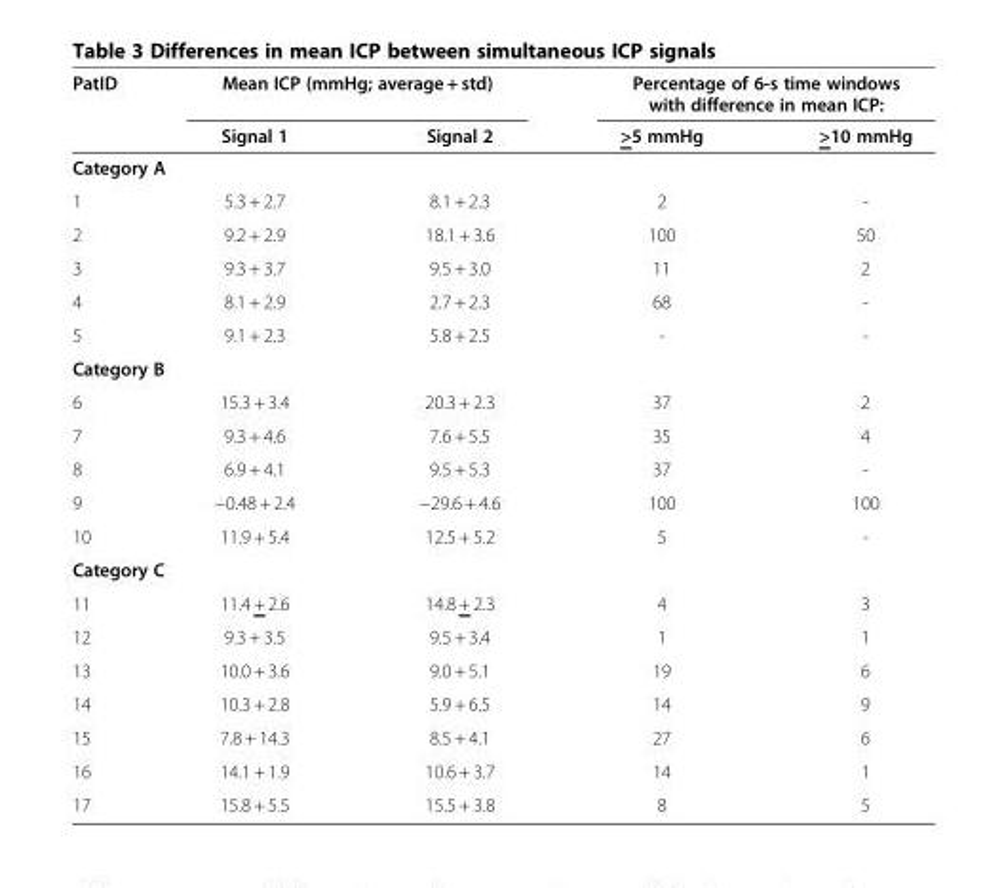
<table><thead><tr><td rowspan="2">PatID</td><td colspan="2">Mean ICP (mmHg; average + std)</td><td colspan="2">Percentage of 6-s time windows with difference in mean ICP:</td></tr><tr><td>Signal 1</td><td>Signal 2</td><td>&gt;5 mmHg</td><td>&gt;10 mmHg</td></tr></thead><tbody><tr><td colspan="5">Category A</td></tr><tr><td>1</td><td>5.3 + 2.7</td><td>8.1 + 2.3</td><td>2</td><td>-</td></tr><tr><td>2</td><td>9.2 + 2.9</td><td>18.1 + 3.6</td><td>100</td><td>50</td></tr><tr><td>3</td><td>9.3 + 3.7</td><td>9.5 + 3.0</td><td>11</td><td>2</td></tr><tr><td>4</td><td>8.1 + 2.9</td><td>2.7 + 2.3</td><td>68</td><td>-</td></tr><tr><td>5</td><td>9.1 + 2.3</td><td>5.8 + 2.5</td><td>-</td><td>-</td></tr><tr><td colspan="5">Category B</td></tr><tr><td>6</td><td>15.3 + 3.4</td><td>20.3 + 2.3</td><td>37</td><td>2</td></tr><tr><td>7</td><td>9.3 + 4.6</td><td>7.6 + 5.5</td><td>35</td><td>4</td></tr><tr><td>8</td><td>6.9 + 4.1</td><td>9.5 + 5.3</td><td>37</td><td>-</td></tr><tr><td>9</td><td>−0.48 + 2.4</td><td>−29.6 + 4.6</td><td>100</td><td>100</td></tr><tr><td>10</td><td>11.9 + 5.4</td><td>12.5 + 5.2</td><td>5</td><td>-</td></tr><tr><td colspan="5">Category C</td></tr><tr><td>11</td><td>11.4 + 2.6</td><td>14.8 + 2.3</td><td>4</td><td>3</td></tr><tr><td>12</td><td>9.3 + 3.5</td><td>9.5 + 3.4</td><td>1</td><td>1</td></tr><tr><td>13</td><td>10.0 + 3.6</td><td>9.0 + 5.1</td><td>19</td><td>6</td></tr><tr><td>14</td><td>10.3 + 2.8</td><td>5.9 + 6.5</td><td>14</td><td>9</td></tr><tr><td>15</td><td>7.8 + 14.3</td><td>8.5 + 4.1</td><td>27</td><td>6</td></tr><tr><td>16</td><td>14.1 + 1.9</td><td>10.6 + 3.7</td><td>14</td><td>1</td></tr><tr><td>17</td><td>15.8 + 5.5</td><td>15.5 + 3.8</td><td>8</td><td>5</td></tr></tbody></table>